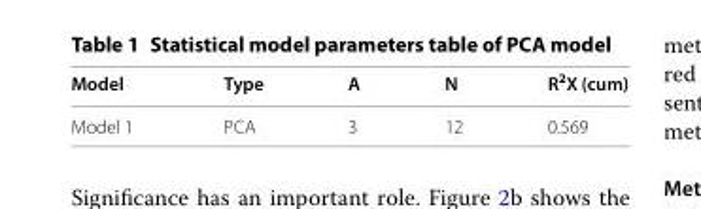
<table><thead><tr><td>Model</td><td>Type</td><td>A</td><td>N</td><td>R<sup>2</sup>X (cum)</td></tr></thead><tbody><tr><td>Model 1</td><td>PCA</td><td>3</td><td>12</td><td>0.569</td></tr></tbody></table>